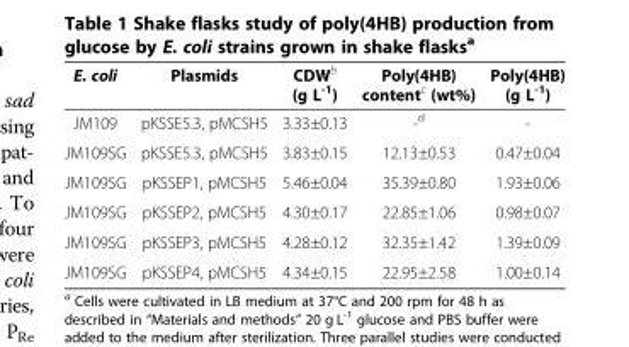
<table><thead><tr><td>E. coli</td><td>Plasmids</td><td>CDW<sup>b</sup> (g L<sup>-1</sup>)</td><td>Poly(4HB) content<sup>c</sup> (wt%)</td><td>Poly(4HB) (g L<sup>-1</sup>)</td></tr></thead><tbody><tr><td>JM109</td><td>pKSSE5.3, pMCSH5</td><td>3.33±0.13</td><td>-<sup>d</sup></td><td>-</td></tr><tr><td>JM109SG</td><td>pKSSE5.3, pMCSH5</td><td>3.83±0.15</td><td>12.13±0.53</td><td>0.47±0.04</td></tr><tr><td>JM109SG</td><td>pKSSEP1, pMCSH5</td><td>5.46±0.04</td><td>35.39±0.80</td><td>1.93±0.06</td></tr><tr><td>JM109SG</td><td>pKSSEP2, pMCSH5</td><td>4.30±0.17</td><td>22.85±1.06</td><td>0.98±0.07</td></tr><tr><td>JM109SG</td><td>pKSSEP3, pMCSH5</td><td>4.28±0.12</td><td>32.35±1.42</td><td>1.39±0.09</td></tr><tr><td>JM109SG</td><td>pKSSEP4, pMCSH5</td><td>4.34±0.15</td><td>22.95±2.58</td><td>1.00±0.14</td></tr></tbody></table>